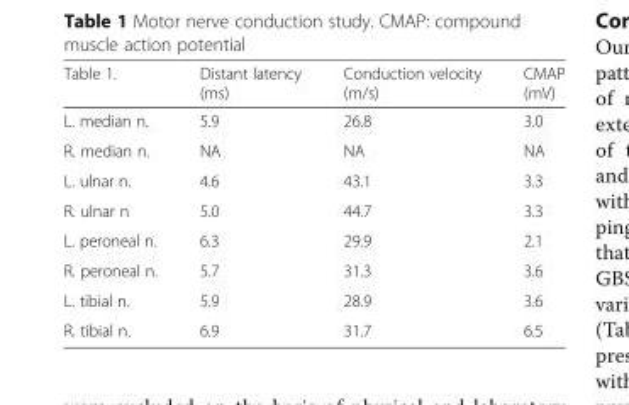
<table><thead><tr><td>Table 1.</td><td>Distant latency (ms)</td><td>Conduction velocity (m/s)</td><td>CMAP (mV)</td></tr></thead><tbody><tr><td>L. median n.</td><td>5.9</td><td>26.8</td><td>3.0</td></tr><tr><td>R. median n.</td><td>NA</td><td>NA</td><td>NA</td></tr><tr><td>L. ulnar n.</td><td>4.6</td><td>43.1</td><td>3.3</td></tr><tr><td>R. ulnar n</td><td>5.0</td><td>44.7</td><td>3.3</td></tr><tr><td>L. peroneal n.</td><td>6.3</td><td>29.9</td><td>2.1</td></tr><tr><td>R. peroneal n.</td><td>5.7</td><td>31.3</td><td>3.6</td></tr><tr><td>L. tibial n.</td><td>5.9</td><td>28.9</td><td>3.6</td></tr><tr><td>R. tibial n.</td><td>6.9</td><td>31.7</td><td>6.5</td></tr></tbody></table>